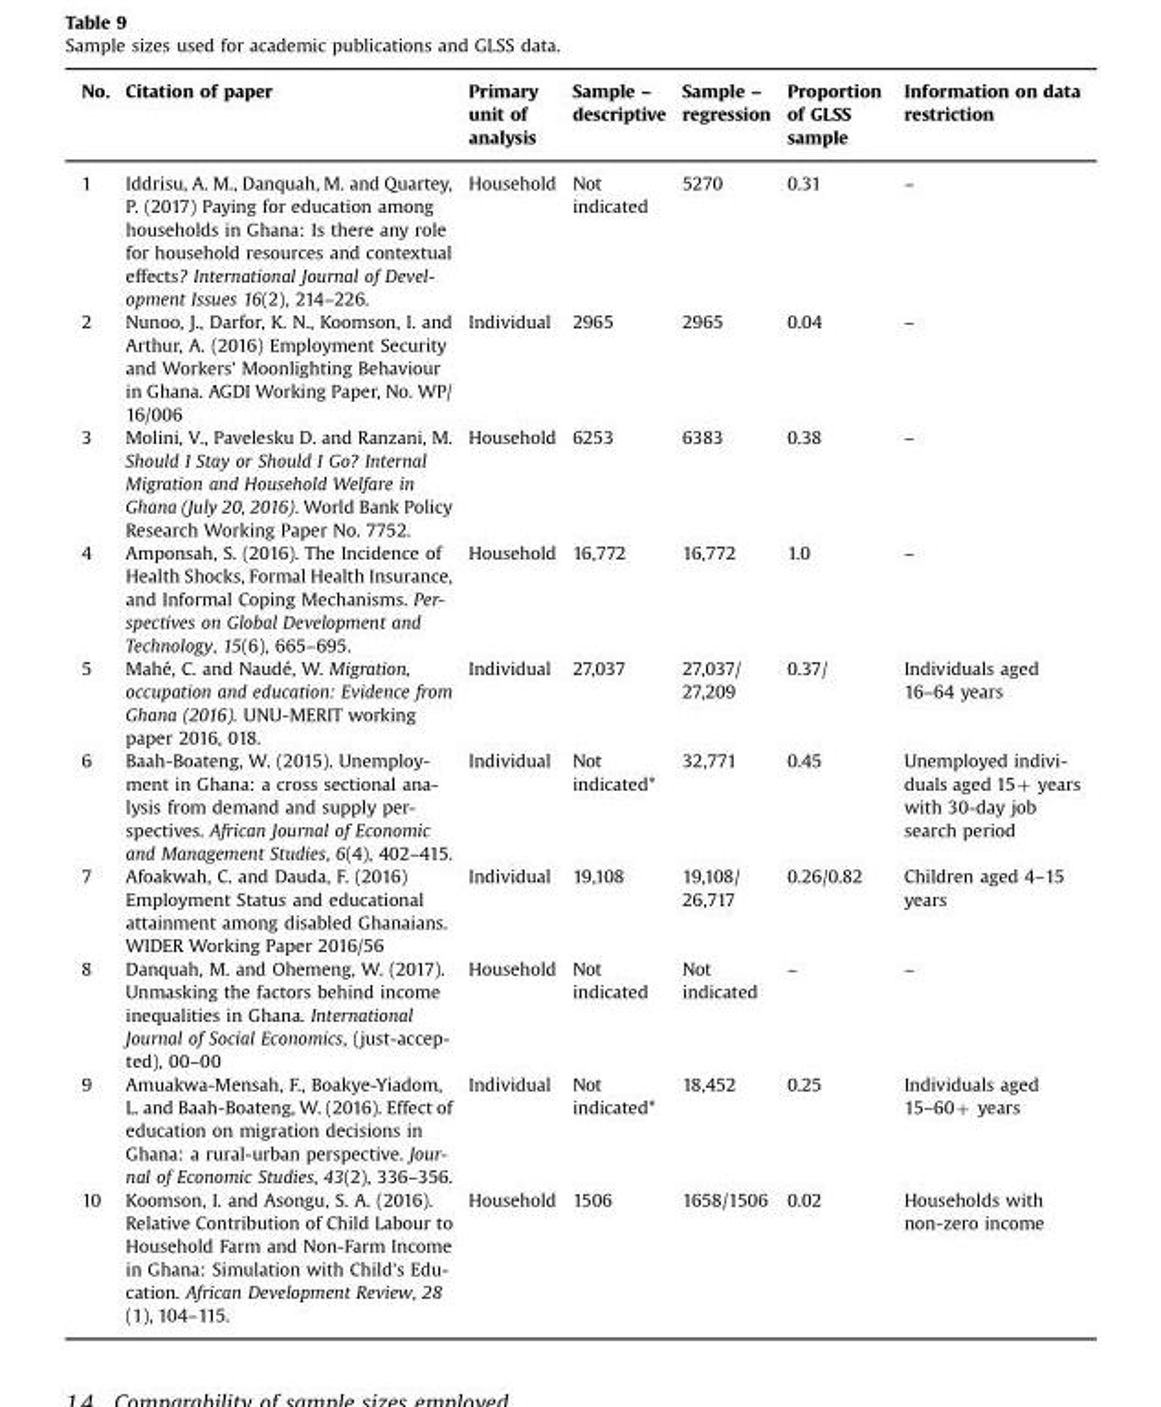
<table><thead><tr><td>No.</td><td>Citation of paper</td><td>Primary unit of analysis</td><td>Sample – descriptive</td><td>Sample – regression</td><td>Proportion of GLSS sample</td><td>Information on data restriction</td></tr></thead><tbody><tr><td>1</td><td>Iddrisu, A. M., Danquah, M. and Quartey, P. (2017) Paying for education among households in Ghana: Is there any role for household resources and contextual effects? International Journal of Devel- opment Issues 16(2), 214–226.</td><td>Household</td><td>Not indicated</td><td>5270</td><td>0.31</td><td>–</td></tr><tr><td>2</td><td>Nunoo, J., Darfor, K. N., Koomson, I. and Arthur, A. (2016) Employment Security and Workers’ Moonlighting Behaviour in Ghana. AGDI Working Paper, No. WP/ 16/006</td><td>Individual</td><td>2965</td><td>2965</td><td>0.04</td><td>–</td></tr><tr><td>3</td><td>Molini, V., Pavelesku D. and Ranzani, M. Should I Stay or Should I Go? Internal Migration and Household Welfare in Ghana (July 20, 2016). World Bank Policy Research Working Paper No. 7752.</td><td>Household</td><td>6253</td><td>6383</td><td>0.38</td><td>–</td></tr><tr><td>4</td><td>Amponsah, S. (2016). The Incidence of Health Shocks, Formal Health Insurance, and Informal Coping Mechanisms. Per- spectives on Global Development and Technology, 15(6), 665–695.</td><td>Household</td><td>16,772</td><td>16,772</td><td>1.0</td><td>–</td></tr><tr><td>5</td><td>Mahé, C. and Naudé, W. Migration, occupation and education: Evidence from Ghana (2016). UNU-MERIT working paper 2016, 018.</td><td>Individual</td><td>27,037</td><td>27,037/ 27,209</td><td>0.37/</td><td>Individuals aged 16–64 years</td></tr><tr><td>6</td><td>Baah-Boateng, W. (2015). Unemploy- ment in Ghana: a cross sectional ana- lysis from demand and supply per- spectives. African Journal of Economic and Management Studies, 6(4), 402–415.</td><td>Individual</td><td>Not indicated*</td><td>32,771</td><td>0.45</td><td>Unemployed indivi- duals aged 15þ years with 30-day job search period</td></tr><tr><td>7</td><td>Afoakwah, C. and Dauda, F. (2016) Employment Status and educational attainment among disabled Ghanaians. WIDER Working Paper 2016/56</td><td>Individual</td><td>19,108</td><td>19,108/ 26,717</td><td>0.26/0.82</td><td>Children aged 4–15 years</td></tr><tr><td>8</td><td>Danquah, M. and Ohemeng, W. (2017). Unmasking the factors behind income inequalities in Ghana. International Journal of Social Economics, (just-accep- ted), 00–00</td><td>Household</td><td>Not indicated</td><td>Not indicated</td><td>–</td><td>–</td></tr><tr><td>9</td><td>Amuakwa-Mensah, F., Boakye-Yiadom, L. and Baah-Boateng, W. (2016). Effect of education on migration decisions in Ghana: a rural-urban perspective. Jour- nal of Economic Studies, 43(2), 336–356.</td><td>Individual</td><td>Not indicated*</td><td>18,452</td><td>0.25</td><td>Individuals aged 15–60+ years</td></tr><tr><td>10</td><td>Koomson, I. and Asongu, S. A. (2016). Relative Contribution of Child Labour to Household Farm and Non-Farm Income in Ghana: Simulation with Child&#x27;s Edu- cation. African Development Review, 28 (1), 104–115.</td><td>Household</td><td>1506</td><td>1658/1506</td><td>0.02</td><td>Households with non-zero income</td></tr></tbody></table>